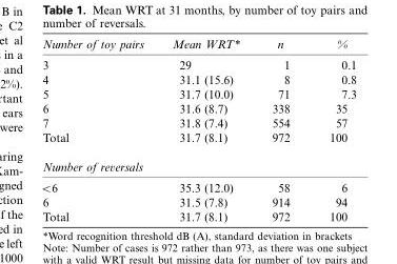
<table><thead><tr><td>Number of toy pairs</td><td>Mean WRT*</td><td>n</td><td>%</td></tr></thead><tbody><tr><td>3</td><td>29</td><td>1</td><td>0.1</td></tr><tr><td>4</td><td>31.1 (15.6)</td><td>8</td><td>0.8</td></tr><tr><td>5</td><td>31.7 (10.0)</td><td>71</td><td>7.3</td></tr><tr><td>6</td><td>31.6 (8.7)</td><td>338</td><td>35</td></tr><tr><td>7</td><td>31.8 (7.4)</td><td>554</td><td>57</td></tr><tr><td>Total</td><td>31.7 (8.1)</td><td>972</td><td>100</td></tr><tr><td colspan="4">Number of reversals</td></tr><tr><td>&lt;6</td><td>35.3 (12.0)</td><td>58</td><td>6</td></tr><tr><td>6</td><td>31.5 (7.8)</td><td>914</td><td>94</td></tr><tr><td>Total</td><td>31.7 (8.1)</td><td>972</td><td>100</td></tr></tbody></table>